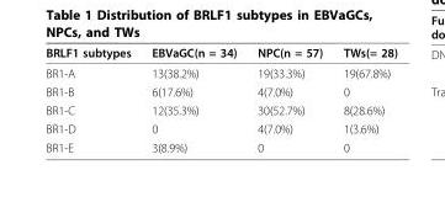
<table><thead><tr><td>BRLF1 subtypes</td><td>EBVaGC(n = 34)</td><td>NPC(n = 57)</td><td>TWs(= 28)</td></tr></thead><tbody><tr><td>BR1-A</td><td>13(38.2%)</td><td>19(33.3%)</td><td>19(67.8%)</td></tr><tr><td>BR1-B</td><td>6(17.6%)</td><td>4(7.0%)</td><td>0</td></tr><tr><td>BR1-C</td><td>12(35.3%)</td><td>30(52.7%)</td><td>8(28.6%)</td></tr><tr><td>BR1-D</td><td>0</td><td>4(7.0%)</td><td>1(3.6%)</td></tr><tr><td>BR1-E</td><td>3(8.9%)</td><td>0</td><td>0</td></tr></tbody></table>